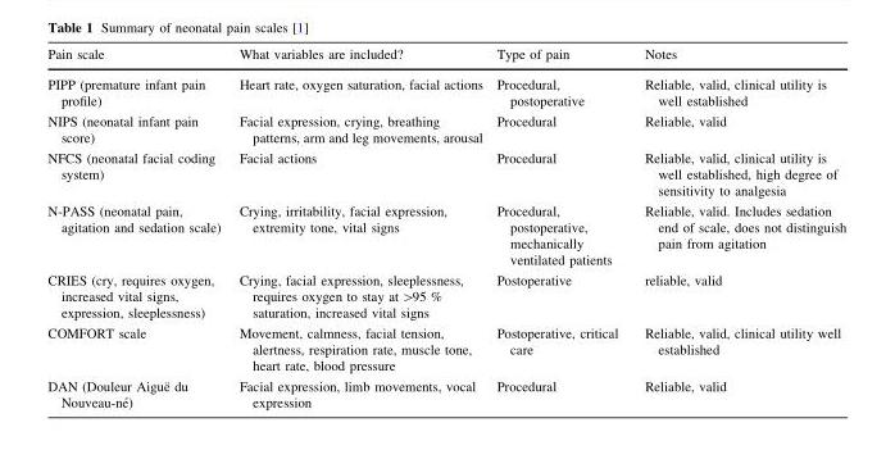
<table><thead><tr><td>Pain scale</td><td>What variables are included?</td><td>Type of pain</td><td>Notes</td></tr></thead><tbody><tr><td>PIPP (premature infant pain profile)</td><td>Heart rate, oxygen saturation, facial actions</td><td>Procedural, postoperative</td><td>Reliable, valid, clinical utility is well established</td></tr><tr><td>NIPS (neonatal infant pain score)</td><td>Facial expression, crying, breathing patterns, arm and leg movements, arousal</td><td>Procedural</td><td>Reliable, valid</td></tr><tr><td>NFCS (neonatal facial coding system)</td><td>Facial actions</td><td>Procedural</td><td>Reliable, valid, clinical utility is well established, high degree of sensitivity to analgesia</td></tr><tr><td>N-PASS (neonatal pain, agitation and sedation scale)</td><td>Crying, irritability, facial expression, extremity tone, vital signs</td><td>Procedural, postoperative, mechanically ventilated patients</td><td>Reliable, valid. Includes sedation end of scale, does not distinguish pain from agitation</td></tr><tr><td>CRIES (cry, requires oxygen, increased vital signs, expression, sleeplessness)</td><td>Crying, facial expression, sleeplessness, requires oxygen to stay at &gt;95 % saturation, increased vital signs</td><td>Postoperative</td><td>reliable, valid</td></tr><tr><td>COMFORT scale</td><td>Movement, calmness, facial tension, alertness, respiration rate, muscle tone, heart rate, blood pressure</td><td>Postoperative, critical care</td><td>Reliable, valid, clinical utility well established</td></tr><tr><td>DAN (Douleur Aigue¨ du Nouveau-ne´)</td><td>Facial expression, limb movements, vocal expression</td><td>Procedural</td><td>Reliable, valid</td></tr></tbody></table>